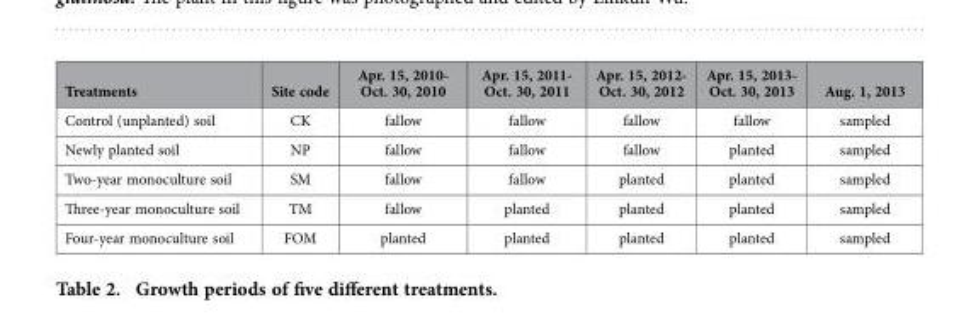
<table><thead><tr><td>Treatments</td><td>Site code</td><td>Apr. 15, 2010- Oct. 30, 2010</td><td>Apr. 15, 2011- Oct. 30, 2011</td><td>Apr. 15, 2012- Oct. 30, 2012</td><td>Apr. 15, 2013- Oct. 30, 2013</td><td>Aug. 1, 2013</td></tr></thead><tbody><tr><td>Control (unplanted) soil</td><td>CK</td><td>fallow</td><td>fallow</td><td>fallow</td><td>fallow</td><td>sampled</td></tr><tr><td>Newly planted soil</td><td>NP</td><td>fallow</td><td>fallow</td><td>fallow</td><td>planted</td><td>sampled</td></tr><tr><td>Two-year monoculture soil</td><td>SM</td><td>fallow</td><td>fallow</td><td>planted</td><td>planted</td><td>sampled</td></tr><tr><td>Three-year monoculture soil</td><td>TM</td><td>fallow</td><td>planted</td><td>planted</td><td>planted</td><td>sampled</td></tr><tr><td>Four-year monoculture soil</td><td>FOM</td><td>planted</td><td>planted</td><td>planted</td><td>planted</td><td>sampled</td></tr></tbody></table>